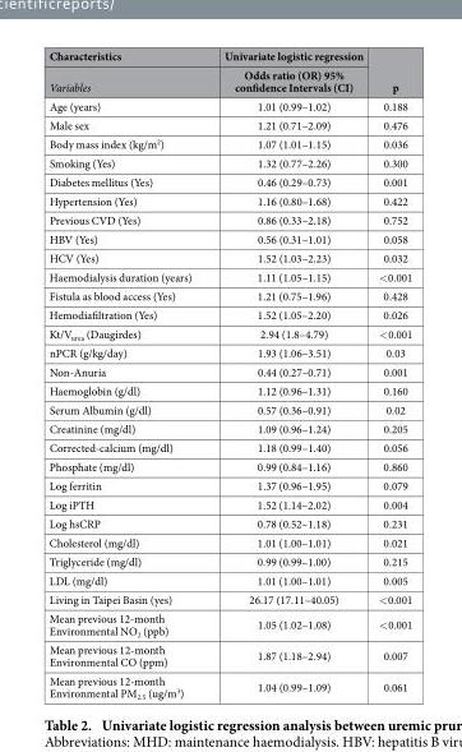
<table><thead><tr><td rowspan="2">Characteristics Variables</td><td rowspan="2">Univariate logistic regression Odds ratio (OR) 95% confidence Intervals (CI)</td><td rowspan="2">p</td></tr><tr></tr></thead><tbody><tr><td>Age (years)</td><td>1.01 (0.99–1.02)</td><td>0.188</td></tr><tr><td>Male sex</td><td>1.21 (0.71–2.09)</td><td>0.476</td></tr><tr><td>Body mass index (kg/m<sup>2</sup>)</td><td>1.07 (1.01–1.15)</td><td>0.036</td></tr><tr><td>Smoking (Yes)</td><td>1.32 (0.77–2.26)</td><td>0.300</td></tr><tr><td>Diabetes mellitus (Yes)</td><td>0.46 (0.29–0.73)</td><td>0.001</td></tr><tr><td>Hypertension (Yes)</td><td>1.16 (0.80–1.68)</td><td>0.422</td></tr><tr><td>Previous CVD (Yes)</td><td>0.86 (0.33–2.18)</td><td>0.752</td></tr><tr><td>HBV (Yes)</td><td>0.56 (0.31–1.01)</td><td>0.058</td></tr><tr><td>HCV (Yes)</td><td>1.52 (1.03–2.23)</td><td>0.032</td></tr><tr><td>Haemodialysis duration (years)</td><td>1.11 (1.05–1.15)</td><td>&lt; 0.001</td></tr><tr><td>Fistula as blood access (Yes)</td><td>1.21 (0.75–1.96)</td><td>0.428</td></tr><tr><td>Hemodiafiltration (Yes)</td><td>1.52 (1.05–2.20)</td><td>0.026</td></tr><tr><td>Kt/V<sub>urea</sub> (Daugirdes)</td><td>2.94 (1.8–4.79)</td><td>&lt; 0.001</td></tr><tr><td>nPCR (g/kg/day)</td><td>1.93 (1.06–3.51)</td><td>0.03</td></tr><tr><td>Non-Anuria</td><td>0.44 (0.27–0.71)</td><td>0.001</td></tr><tr><td>Haemoglobin (g/dl)</td><td>1.12 (0.96–1.31)</td><td>0.160</td></tr><tr><td>Serum Albumin (g/dl)</td><td>0.57 (0.36–0.91)</td><td>0.02</td></tr><tr><td>Creatinine (mg/dl)</td><td>1.09 (0.96–1.24)</td><td>0.205</td></tr><tr><td>Corrected-calcium (mg/dl)</td><td>1.18 (0.99–1.40)</td><td>0.056</td></tr><tr><td>Phosphate (mg/dl)</td><td>0.99 (0.84–1.16)</td><td>0.860</td></tr><tr><td>Log ferritin</td><td>1.37 (0.96–1.95)</td><td>0.079</td></tr><tr><td>Log iPTH</td><td>1.52 (1.14–2.02)</td><td>0.004</td></tr><tr><td>Log hsCRP</td><td>0.78 (0.52–1.18)</td><td>0.231</td></tr><tr><td>Cholesterol (mg/dl)</td><td>1.01 (1.00–1.01)</td><td>0.021</td></tr><tr><td>Triglyceride (mg/dl)</td><td>0.99 (0.99–1.00)</td><td>0.215</td></tr><tr><td>LDL (mg/dl)</td><td>1.01 (1.00–1.01)</td><td>0.005</td></tr><tr><td>Living in Taipei Basin (yes)</td><td>26.17 (17.11–40.05)</td><td>&lt; 0.001</td></tr><tr><td>Mean previous 12-month Environmental NO<sub>2</sub> (ppb)</td><td>1.05 (1.02–1.08)</td><td>&lt; 0.001</td></tr><tr><td>Mean previous 12-month Environmental CO (ppm)</td><td>1.87 (1.18–2.94)</td><td>0.007</td></tr><tr><td>Mean previous 12-month Environmental PM<sub>2.5</sub> (ug/m<sup>3</sup>)</td><td>1.04 (0.99–1.09)</td><td>0.061</td></tr></tbody></table>